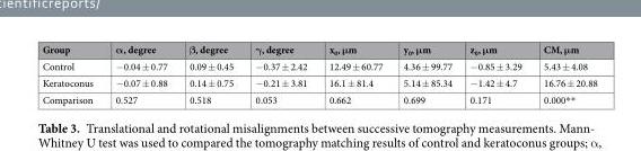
<table><thead><tr><td>Group</td><td>α, degree</td><td>β, degree</td><td>γ, degree</td><td>x<sub>0</sub>, μm</td><td>y<sub>0</sub>, μm</td><td>z<sub>0</sub>, μm</td><td>CM, μm</td></tr></thead><tbody><tr><td>Control</td><td>−0.04 ± 0.77</td><td>0.09 ± 0.45</td><td>−0.37 ± 2.42</td><td>12.49 ± 60.77</td><td>4.36 ± 99.77</td><td>−0.85 ± 3.29</td><td>5.43 ± 4.08</td></tr><tr><td>Keratoconus</td><td>−0.07 ± 0.88</td><td>0.14 ± 0.75</td><td>−0.21 ± 3.81</td><td>16.1 ± 81.4</td><td>5.14 ± 85.34</td><td>−1.42 ± 4.7</td><td>16.76 ± 20.88</td></tr><tr><td>Comparison</td><td>0.527</td><td>0.518</td><td>0.053</td><td>0.662</td><td>0.699</td><td>0.171</td><td>0.000**</td></tr></tbody></table>